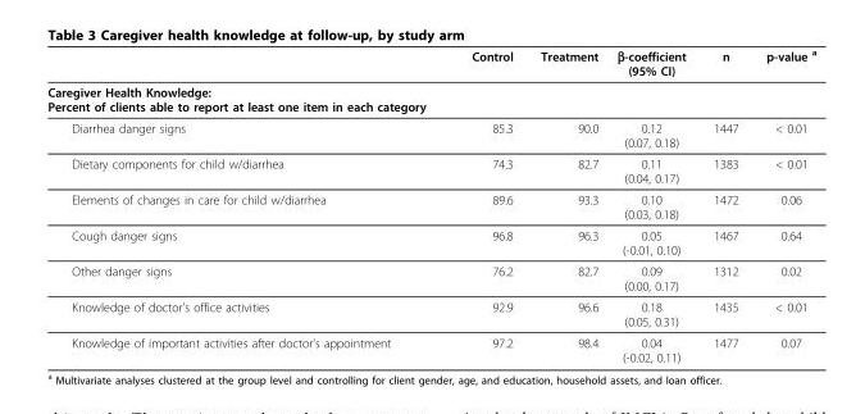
<table><thead><tr><td></td><td>Control</td><td>Treatment</td><td>β-coefficient (95% CI)</td><td>n</td><td>p-value <sup>a</sup></td></tr></thead><tbody><tr><td colspan="6">Caregiver Health Knowledge: Percent of clients able to report at least one item in each category</td></tr><tr><td>Diarrhea danger signs</td><td>85.3</td><td>90.0</td><td>0.12 (0.07, 0.18)</td><td>1447</td><td>&lt; 0.01</td></tr><tr><td>Dietary components for child w/diarrhea</td><td>74.3</td><td>82.7</td><td>0.11 (0.04, 0.17)</td><td>1383</td><td>&lt; 0.01</td></tr><tr><td>Elements of changes in care for child w/diarrhea</td><td>89.6</td><td>93.3</td><td>0.10 (0.03, 0.18)</td><td>1472</td><td>0.06</td></tr><tr><td>Cough danger signs</td><td>96.8</td><td>96.3</td><td>0.05 (-0.01, 0.10)</td><td>1467</td><td>0.64</td></tr><tr><td>Other danger signs</td><td>76.2</td><td>82.7</td><td>0.09 (0.00, 0.17)</td><td>1312</td><td>0.02</td></tr><tr><td>Knowledge of doctor’s office activities</td><td>92.9</td><td>96.6</td><td>0.18 (0.05, 0.31)</td><td>1435</td><td>&lt; 0.01</td></tr><tr><td>Knowledge of important activities after doctor’s appointment</td><td>97.2</td><td>98.4</td><td>0.04 (-0.02, 0.11)</td><td>1477</td><td>0.07</td></tr></tbody></table>